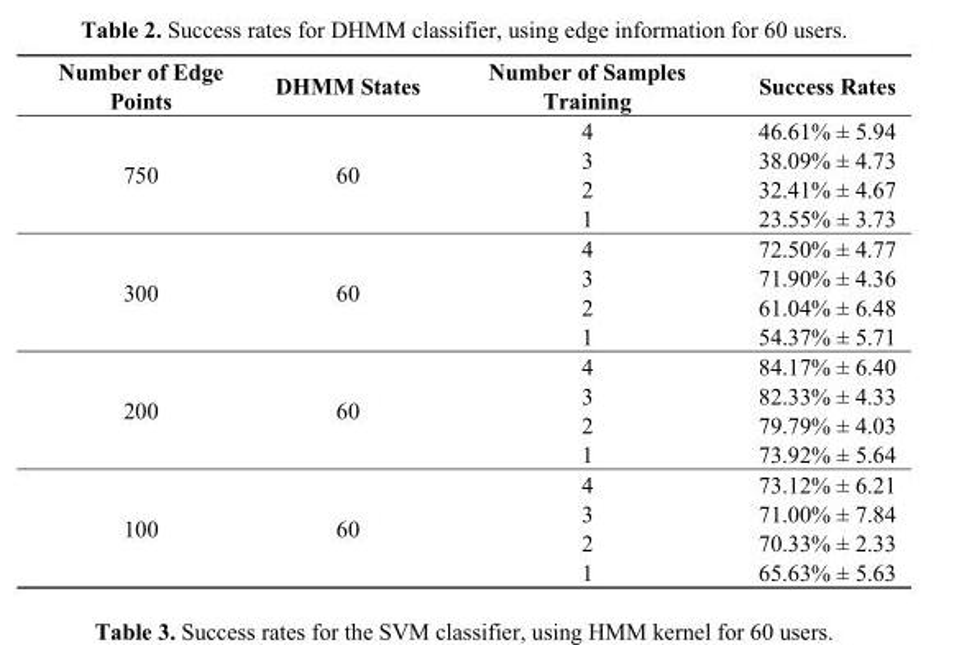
<table><thead><tr><td>Number of Edge Points</td><td>DHMM States</td><td>Number of Samples Training</td><td>Success Rates</td></tr></thead><tbody><tr><td rowspan="4">750</td><td rowspan="4">60</td><td>4</td><td>46.61% ± 5.94</td></tr><tr><td>3</td><td>38.09% ± 4.73</td></tr><tr><td>2</td><td>32.41% ± 4.67</td></tr><tr><td>1</td><td>23.55% ± 3.73</td></tr><tr><td rowspan="4">300</td><td rowspan="4">60</td><td>4</td><td>72.50% ± 4.77</td></tr><tr><td>3</td><td>71.90% ± 4.36</td></tr><tr><td>2</td><td>61.04% ± 6.48</td></tr><tr><td>1</td><td>54.37% ± 5.71</td></tr><tr><td rowspan="4">200</td><td rowspan="4">60</td><td>4</td><td>84.17% ± 6.40</td></tr><tr><td>3</td><td>82.33% ± 4.33</td></tr><tr><td>2</td><td>79.79% ± 4.03</td></tr><tr><td>1</td><td>73.92% ± 5.64</td></tr><tr><td rowspan="4">100</td><td rowspan="4">60</td><td>4</td><td>73.12% ± 6.21</td></tr><tr><td>3</td><td>71.00% ± 7.84</td></tr><tr><td>2</td><td>70.33% ± 2.33</td></tr><tr><td>1</td><td>65.63% ± 5.63</td></tr></tbody></table>